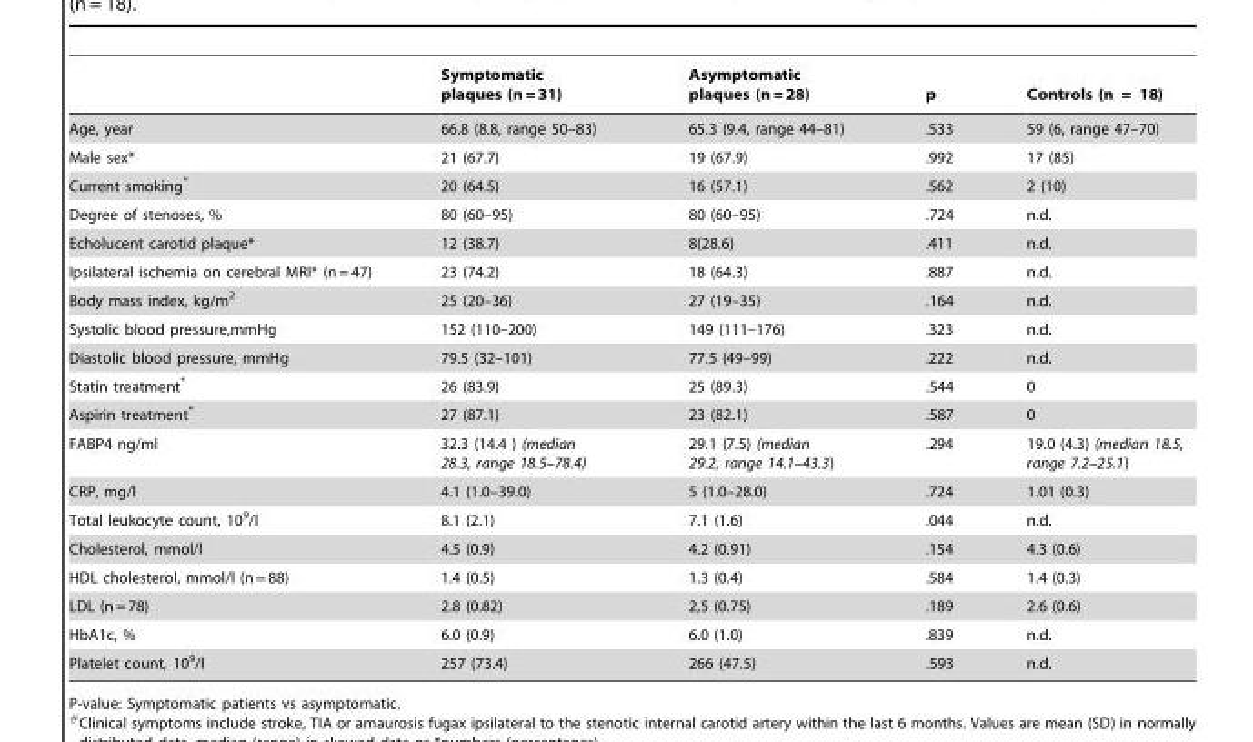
<table><thead><tr><td></td><td>Symptomatic plaques (n = 31)</td><td>Asymptomatic plaques (n = 28)</td><td>p</td><td>Controls (n = 18)</td></tr></thead><tbody><tr><td>Age, year</td><td>66.8 (8.8, range 50–83)</td><td>65.3 (9.4, range 44–81)</td><td>.533</td><td>59 (6, range 47–70)</td></tr><tr><td>Male sex*</td><td>21 (67.7)</td><td>19 (67.9)</td><td>.992</td><td>17 (85)</td></tr><tr><td>Current smoking*</td><td>20 (64.5)</td><td>16 (57.1)</td><td>.562</td><td>2 (10)</td></tr><tr><td>Degree of stenoses, %</td><td>80 (60–95)</td><td>80 (60–95)</td><td>.724</td><td>n.d.</td></tr><tr><td>Echolucent carotid plaque*</td><td>12 (38.7)</td><td>8(28.6)</td><td>.411</td><td>n.d.</td></tr><tr><td>Ipsilateral ischemia on cerebral MRI* (n = 47)</td><td>23 (74.2)</td><td>18 (64.3)</td><td>.887</td><td>n.d.</td></tr><tr><td>Body mass index, kg/m<sup>2</sup></td><td>25 (20–36)</td><td>27 (19–35)</td><td>.164</td><td>n.d.</td></tr><tr><td>Systolic blood pressure,mmHg</td><td>152 (110–200)</td><td>149 (111–176)</td><td>.323</td><td>n.d.</td></tr><tr><td>Diastolic blood pressure, mmHg</td><td>79.5 (32–101)</td><td>77.5 (49–99)</td><td>.222</td><td>n.d.</td></tr><tr><td>Statin treatment*</td><td>26 (83.9)</td><td>25 (89.3)</td><td>.544</td><td>0</td></tr><tr><td>Aspirin treatment*</td><td>27 (87.1)</td><td>23 (82.1)</td><td>.587</td><td>0</td></tr><tr><td>FABP4 ng/ml</td><td>32.3 (14.4 ) (median 28.3, range 18.5–78.4)</td><td>29.1 (7.5) (median 29.2, range 14.1–43.3)</td><td>.294</td><td>19.0 (4.3) (median 18.5, range 7.2–25.1)</td></tr><tr><td>CRP, mg/l</td><td>4.1 (1.0–39.0)</td><td>5 (1.0–28.0)</td><td>.724</td><td>1.01 (0.3)</td></tr><tr><td>Total leukocyte count, 10<sup>9</sup>/l</td><td>8.1 (2.1)</td><td>7.1 (1.6)</td><td>.044</td><td>n.d.</td></tr><tr><td>Cholesterol, mmol/l</td><td>4.5 (0.9)</td><td>4.2 (0.91)</td><td>.154</td><td>4.3 (0.6)</td></tr><tr><td>HDL cholesterol, mmol/l (n = 88)</td><td>1.4 (0.5)</td><td>1.3 (0.4)</td><td>.584</td><td>1.4 (0.3)</td></tr><tr><td>LDL (n = 78)</td><td>2.8 (0.82)</td><td>2,5 (0.75)</td><td>.189</td><td>2.6 (0.6)</td></tr><tr><td>HbA1c, %</td><td>6.0 (0.9)</td><td>6.0 (1.0)</td><td>.839</td><td>n.d.</td></tr><tr><td>Platelet count, 10<sup>9</sup>/l</td><td>257 (73.4)</td><td>266 (47.5)</td><td>.593</td><td>n.d.</td></tr></tbody></table>